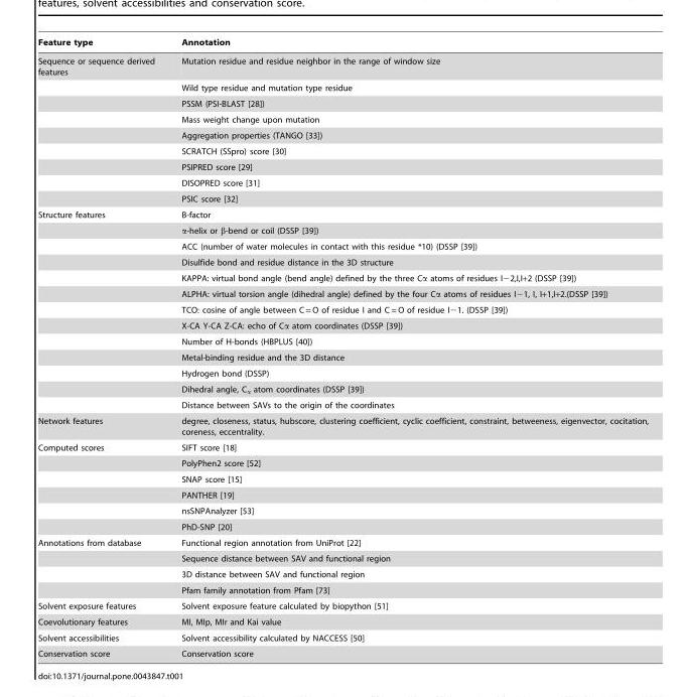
<table><thead><tr><td>Feature type</td><td>Annotation</td></tr></thead><tbody><tr><td rowspan="9">Sequence or sequence derived features</td><td>Mutation residue and residue neighbor in the range of window size</td></tr><tr><td>Wild type residue and mutation type residue</td></tr><tr><td>PSSM (PSI-BLAST [28])</td></tr><tr><td>Mass weight change upon mutation</td></tr><tr><td>Aggregation properties (TANGO [33])</td></tr><tr><td>SCRATCH (SSpro) score [30]</td></tr><tr><td>PSIPRED score [29]</td></tr><tr><td>DISOPRED score [31]</td></tr><tr><td>PSIC score [32]</td></tr><tr><td rowspan="13">Structure features</td><td>B-factor</td></tr><tr><td>α-helix or β-bend or coil (DSSP [39])</td></tr><tr><td>ACC (number of water molecules in contact with this residue *10) (DSSP [39])</td></tr><tr><td>Disulfide bond and residue distance in the 3D structure</td></tr><tr><td>KAPPA: virtual bond angle (bend angle) defined by the three Cα atoms of residues I−2,I,I+2 (DSSP [39])</td></tr><tr><td>ALPHA: virtual torsion angle (dihedral angle) defined by the four Cα atoms of residues I−1, I, I+1,I+2.(DSSP [39])</td></tr><tr><td>TCO: cosine of angle between C = O of residue I and C = O of residue I−1. (DSSP [39])</td></tr><tr><td>X-CA Y-CA Z-CA: echo of Cα atom coordinates (DSSP [39])</td></tr><tr><td>Number of H-bonds (HBPLUS [40])</td></tr><tr><td>Metal-binding residue and the 3D distance</td></tr><tr><td>Hydrogen bond (DSSP)</td></tr><tr><td>Dihedral angle, C<sub>α</sub> atom coordinates (DSSP [39])</td></tr><tr><td>Distance between SAVs to the origin of the coordinates</td></tr><tr><td>Network features</td><td>degree, closeness, status, hubscore, clustering coefficient, cyclic coefficient, constraint, betweeness, eigenvector, cocitation, coreness, eccentrality.</td></tr><tr><td rowspan="6">Computed scores</td><td>SIFT score [18]</td></tr><tr><td>PolyPhen2 score [52]</td></tr><tr><td>SNAP score [15]</td></tr><tr><td>PANTHER [19]</td></tr><tr><td>nsSNPAnalyzer [53]</td></tr><tr><td>PhD-SNP [20]</td></tr><tr><td rowspan="4">Annotations from database</td><td>Functional region annotation from UniProt [22]</td></tr><tr><td>Sequence distance between SAV and functional region</td></tr><tr><td>3D distance between SAV and functional region</td></tr><tr><td>Pfam family annotation from Pfam [73]</td></tr><tr><td>Solvent exposure features</td><td>Solvent exposure feature calculated by biopython [51]</td></tr><tr><td>Coevolutionary features</td><td>MI, MIp, MIr and Kai value</td></tr><tr><td>Solvent accessibilities</td><td>Solvent accessibility calculated by NACCESS [50]</td></tr><tr><td>Conservation score</td><td>Conservation score</td></tr></tbody></table>